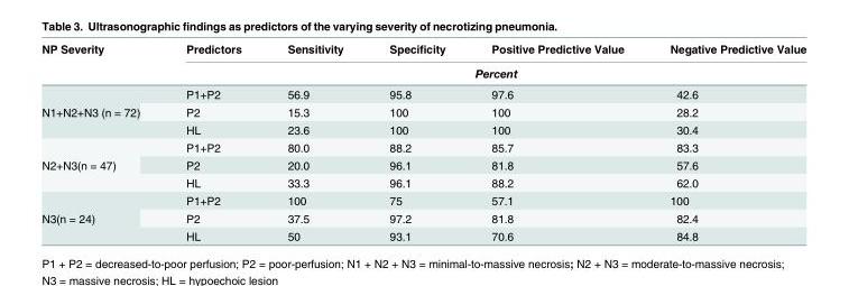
<table><thead><tr><td rowspan="2">NP Severity</td><td>Predictors</td><td>Sensitivity</td><td>Specificity</td><td>Positive Predictive Value</td><td>Negative Predictive Value</td></tr><tr><td colspan="5">Percent</td></tr></thead><tbody><tr><td rowspan="3">N1+N2+N3 (n = 72)</td><td>P1+P2</td><td>56.9</td><td>95.8</td><td>97.6</td><td>42.6</td></tr><tr><td>P2</td><td>15.3</td><td>100</td><td>100</td><td>28.2</td></tr><tr><td>HL</td><td>23.6</td><td>100</td><td>100</td><td>30.4</td></tr><tr><td rowspan="3">N2+N3(n = 47)</td><td>P1+P2</td><td>80.0</td><td>88.2</td><td>85.7</td><td>83.3</td></tr><tr><td>P2</td><td>20.0</td><td>96.1</td><td>81.8</td><td>57.6</td></tr><tr><td>HL</td><td>33.3</td><td>96.1</td><td>88.2</td><td>62.0</td></tr><tr><td rowspan="3">N3(n = 24)</td><td>P1+P2</td><td>100</td><td>75</td><td>57.1</td><td>100</td></tr><tr><td>P2</td><td>37.5</td><td>97.2</td><td>81.8</td><td>82.4</td></tr><tr><td>HL</td><td>50</td><td>93.1</td><td>70.6</td><td>84.8</td></tr></tbody></table>